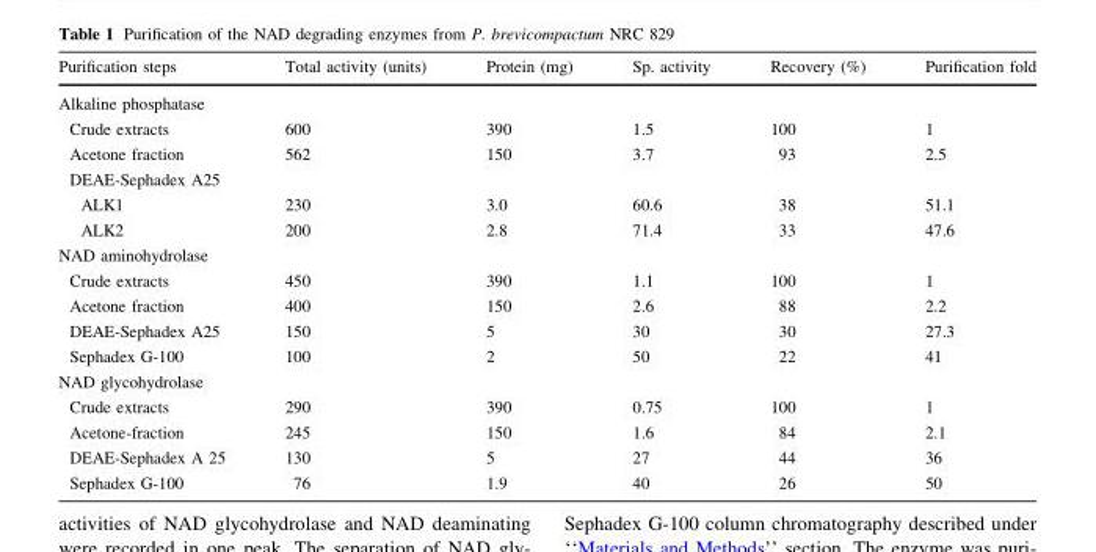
<table><thead><tr><td>Purification steps</td><td>Total activity (units)</td><td>Protein (mg)</td><td>Sp. activity</td><td>Recovery (%)</td><td>Purification fold</td></tr></thead><tbody><tr><td colspan="6">Alkaline phosphatase</td></tr><tr><td>Crude extracts</td><td>600</td><td>390</td><td>1.5</td><td>100</td><td>1</td></tr><tr><td>Acetone fraction</td><td>562</td><td>150</td><td>3.7</td><td>93</td><td>2.5</td></tr><tr><td colspan="6">DEAE-Sephadex A25</td></tr><tr><td>ALK1</td><td>230</td><td>3.0</td><td>60.6</td><td>38</td><td>51.1</td></tr><tr><td>ALK2</td><td>200</td><td>2.8</td><td>71.4</td><td>33</td><td>47.6</td></tr><tr><td colspan="6">NAD aminohydrolase</td></tr><tr><td>Crude extracts</td><td>450</td><td>390</td><td>1.1</td><td>100</td><td>1</td></tr><tr><td>Acetone fraction</td><td>400</td><td>150</td><td>2.6</td><td>88</td><td>2.2</td></tr><tr><td>DEAE-Sephadex A25</td><td>150</td><td>5</td><td>30</td><td>30</td><td>27.3</td></tr><tr><td>Sephadex G-100</td><td>100</td><td>2</td><td>50</td><td>22</td><td>41</td></tr><tr><td colspan="6">NAD glycohydrolase</td></tr><tr><td>Crude extracts</td><td>290</td><td>390</td><td>0.75</td><td>100</td><td>1</td></tr><tr><td>Acetone-fraction</td><td>245</td><td>150</td><td>1.6</td><td>84</td><td>2.1</td></tr><tr><td>DEAE-Sephadex A 25</td><td>130</td><td>5</td><td>27</td><td>44</td><td>36</td></tr><tr><td>Sephadex G-100</td><td>76</td><td>1.9</td><td>40</td><td>26</td><td>50</td></tr></tbody></table>